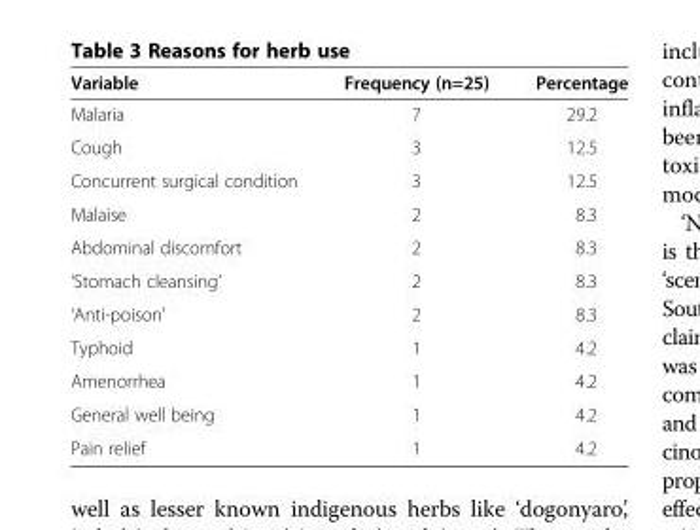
<table><thead><tr><td>Variable</td><td>Frequency (n=25)</td><td>Percentage</td></tr></thead><tbody><tr><td>Malaria</td><td>7</td><td>29.2</td></tr><tr><td>Cough</td><td>3</td><td>12.5</td></tr><tr><td>Concurrent surgical condition</td><td>3</td><td>12.5</td></tr><tr><td>Malaise</td><td>2</td><td>8.3</td></tr><tr><td>Abdominal discomfort</td><td>2</td><td>8.3</td></tr><tr><td>‘Stomach cleansing’</td><td>2</td><td>8.3</td></tr><tr><td>‘Anti-poison’</td><td>2</td><td>8.3</td></tr><tr><td>Typhoid</td><td>1</td><td>4.2</td></tr><tr><td>Amenorrhea</td><td>1</td><td>4.2</td></tr><tr><td>General well being</td><td>1</td><td>4.2</td></tr><tr><td>Pain relief</td><td>1</td><td>4.2</td></tr></tbody></table>